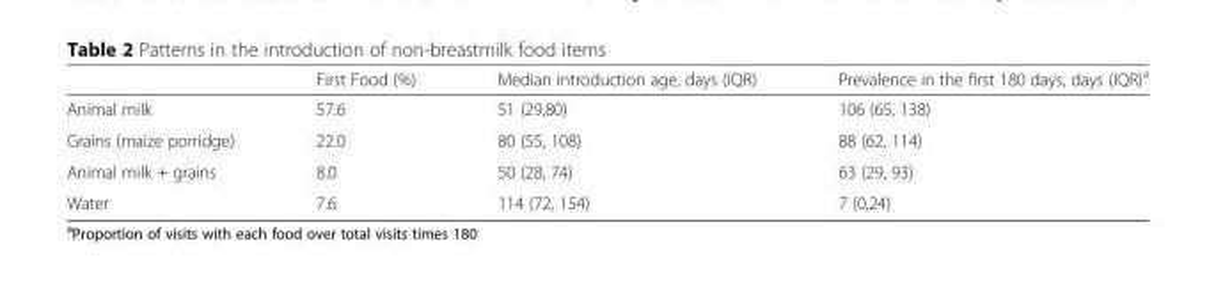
<table><thead><tr><td></td><td>First Food (%)</td><td>Median introduction age, days (IQR)</td><td>Prevalence in the first 180 days, days (IQR)<sup>a</sup></td></tr></thead><tbody><tr><td>Animal milk</td><td>57.6</td><td>51 (29,80)</td><td>106 (65, 138)</td></tr><tr><td>Grains (maize porridge)</td><td>22.0</td><td>80 (55, 108)</td><td>88 (62, 114)</td></tr><tr><td>Animal milk + grains</td><td>8.0</td><td>50 (28, 74)</td><td>63 (29, 93)</td></tr><tr><td>Water</td><td>7.6</td><td>114 (72, 154)</td><td>7 (0,24)</td></tr></tbody></table>